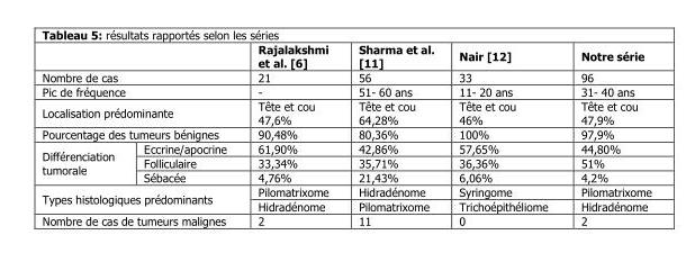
<table><thead><tr><td></td><td></td><td>Rajalakshmi et al. [6]</td><td>Sharma et al. [11]</td><td>Nair [12]</td><td>Notre série</td></tr></thead><tbody><tr><td colspan="2">Nombre de cas</td><td>21</td><td>56</td><td>33</td><td>96</td></tr><tr><td colspan="2">Pic de fréquence</td><td>-</td><td>51- 60 ans</td><td>11- 20 ans</td><td>31- 40 ans</td></tr><tr><td colspan="2">Localisation prédominante</td><td>Tête et cou 47,6%</td><td>Tête et cou 64,28%</td><td>Tête et cou 46%</td><td>Tête et cou 47,9%</td></tr><tr><td colspan="2">Pourcentage des tumeurs bénignes</td><td>90,48%</td><td>80,36%</td><td>100%</td><td>97,9%</td></tr><tr><td rowspan="3">Différenciation tumorale</td><td>Eccrine/apocrine</td><td>61,90%</td><td>42,86%</td><td>57,65%</td><td>44,80%</td></tr><tr><td>Folliculaire</td><td>33,34%</td><td>35,71%</td><td>36,36%</td><td>51%</td></tr><tr><td>Sébacée</td><td>4,76%</td><td>21,43%</td><td>6,06%</td><td>4,2%</td></tr><tr><td rowspan="2" colspan="2">Types histologiques prédominants</td><td>Pilomatrixome</td><td>Hidradénome</td><td>Syringome</td><td>Pilomatrixome</td></tr><tr><td>Hidradénome</td><td>Pilomatrixome</td><td>Trichoépithéliome</td><td>Hidradénome</td></tr><tr><td colspan="2">Nombre de cas de tumeurs malignes</td><td>2</td><td>11</td><td>0</td><td>2</td></tr></tbody></table>